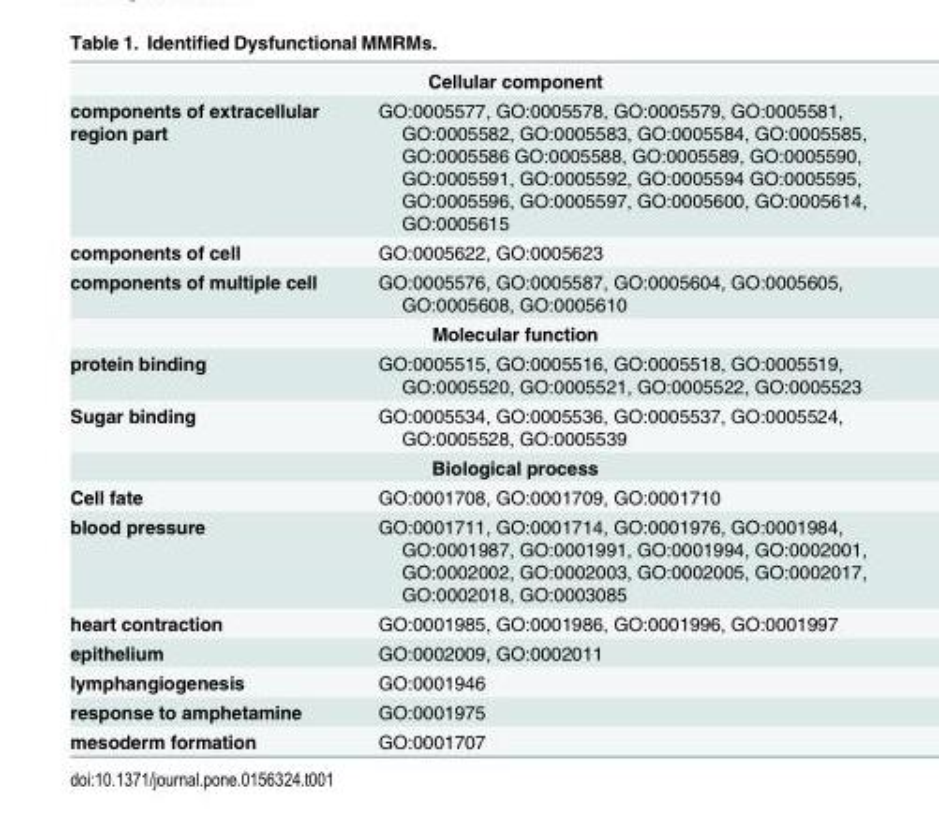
<table><tbody><tr><td colspan="2">Cellular component</td></tr><tr><td>components of extracellular region part</td><td>GO:0005577, GO:0005578, GO:0005579, GO:0005581, GO:0005582, GO:0005583, GO:0005584, GO:0005585, GO:0005586 GO:0005588, GO:0005589, GO:0005590, GO:0005591, GO:0005592, GO:0005594 GO:0005595, GO:0005596, GO:0005597, GO:0005600, GO:0005614, GO:0005615</td></tr><tr><td>components of cell</td><td>GO:0005622, GO:0005623</td></tr><tr><td>components of multiple cell</td><td>GO:0005576, GO:0005587, GO:0005604, GO:0005605, GO:0005608, GO:0005610</td></tr><tr><td colspan="2">Molecular function</td></tr><tr><td>protein binding</td><td>GO:0005515, GO:0005516, GO:0005518, GO:0005519, GO:0005520, GO:0005521, GO:0005522, GO:0005523</td></tr><tr><td>Sugar binding</td><td>GO:0005534, GO:0005536, GO:0005537, GO:0005524, GO:0005528, GO:0005539</td></tr><tr><td colspan="2">Biological process</td></tr><tr><td>Cell fate</td><td>GO:0001708, GO:0001709, GO:0001710</td></tr><tr><td>blood pressure</td><td>GO:0001711, GO:0001714, GO:0001976, GO:0001984, GO:0001987, GO:0001991, GO:0001994, GO:0002001, GO:0002002, GO:0002003, GO:0002005, GO:0002017, GO:0002018, GO:0003085</td></tr><tr><td>heart contraction</td><td>GO:0001985, GO:0001986, GO:0001996, GO:0001997</td></tr><tr><td>epithelium</td><td>GO:0002009, GO:0002011</td></tr><tr><td>lymphangiogenesis</td><td>GO:0001946</td></tr><tr><td>response to amphetamine</td><td>GO:0001975</td></tr><tr><td>mesoderm formation</td><td>GO:0001707</td></tr></tbody></table>